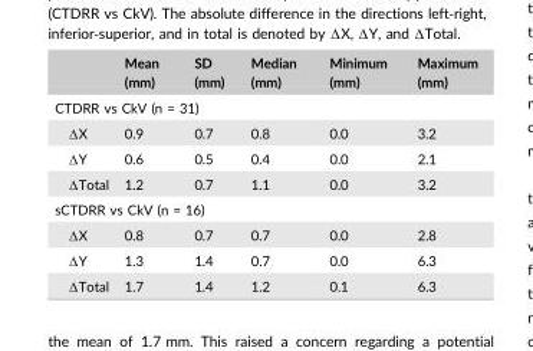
<table><thead><tr><td></td><td>Mean (mm)</td><td>SD (mm)</td><td>Median (mm)</td><td>Minimum (mm)</td><td>Maximum (mm)</td></tr></thead><tbody><tr><td colspan="6">CTDRR vs CkV (n = 31)</td></tr><tr><td>ΔX</td><td>0.9</td><td>0.7</td><td>0.8</td><td>0.0</td><td>3.2</td></tr><tr><td>ΔY</td><td>0.6</td><td>0.5</td><td>0.4</td><td>0.0</td><td>2.1</td></tr><tr><td>ΔTotal</td><td>1.2</td><td>0.7</td><td>1.1</td><td>0.0</td><td>3.2</td></tr><tr><td colspan="6">sCTDRR vs CkV (n = 16)</td></tr><tr><td>ΔX</td><td>0.8</td><td>0.7</td><td>0.7</td><td>0.0</td><td>2.8</td></tr><tr><td>ΔY</td><td>1.3</td><td>1.4</td><td>0.7</td><td>0.0</td><td>6.3</td></tr><tr><td>ΔTotal</td><td>1.7</td><td>1.4</td><td>1.2</td><td>0.1</td><td>6.3</td></tr></tbody></table>